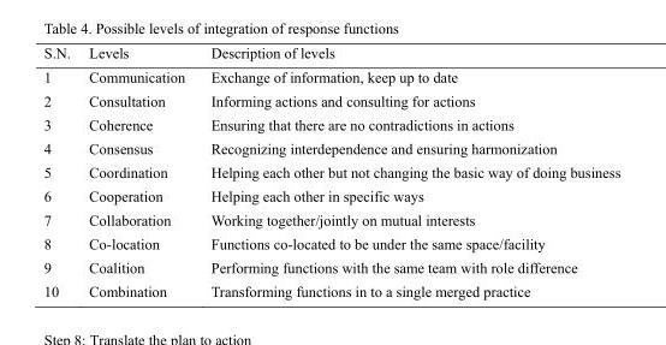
<table><thead><tr><td>S.N.</td><td>Levels</td><td>Description of levels</td></tr></thead><tbody><tr><td>1</td><td>Communication</td><td>Exchange of information, keep up to date</td></tr><tr><td>2</td><td>Consultation</td><td>Informing actions and consulting for actions</td></tr><tr><td>3</td><td>Coherence</td><td>Ensuring that there are no contradictions in actions</td></tr><tr><td>4</td><td>Consensus</td><td>Recognizing interdependence and ensuring harmonization</td></tr><tr><td>5</td><td>Coordination</td><td>Helping each other but not changing the basic way of doing business</td></tr><tr><td>6</td><td>Cooperation</td><td>Helping each other in specific ways</td></tr><tr><td>7</td><td>Collaboration</td><td>Working together/jointly on mutual interests</td></tr><tr><td>8</td><td>Co-location</td><td>Functions co-located to be under the same space/facility</td></tr><tr><td>9</td><td>Coalition</td><td>Performing functions with the same team with role difference</td></tr><tr><td>10</td><td>Combination</td><td>Transforming functions in to a single merged practice</td></tr></tbody></table>